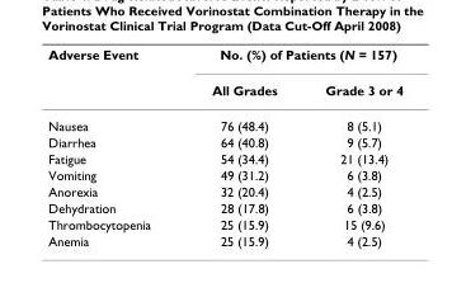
<table><thead><tr><td rowspan="2">Adverse Event</td><td colspan="2">No. (%) of Patients (N = 157)</td></tr><tr><td>All Grades</td><td>Grade 3 or 4</td></tr></thead><tbody><tr><td>Nausea</td><td>76 (48.4)</td><td>8 (5.1)</td></tr><tr><td>Diarrhea</td><td>64 (40.8)</td><td>9 (5.7)</td></tr><tr><td>Fatigue</td><td>54 (34.4)</td><td>21 (13.4)</td></tr><tr><td>Vomiting</td><td>49 (31.2)</td><td>6 (3.8)</td></tr><tr><td>Anorexia</td><td>32 (20.4)</td><td>4 (2.5)</td></tr><tr><td>Dehydration</td><td>28 (17.8)</td><td>6 (3.8)</td></tr><tr><td>Thrombocytopenia</td><td>25 (15.9)</td><td>15 (9.6)</td></tr><tr><td>Anemia</td><td>25 (15.9)</td><td>4 (2.5)</td></tr></tbody></table>